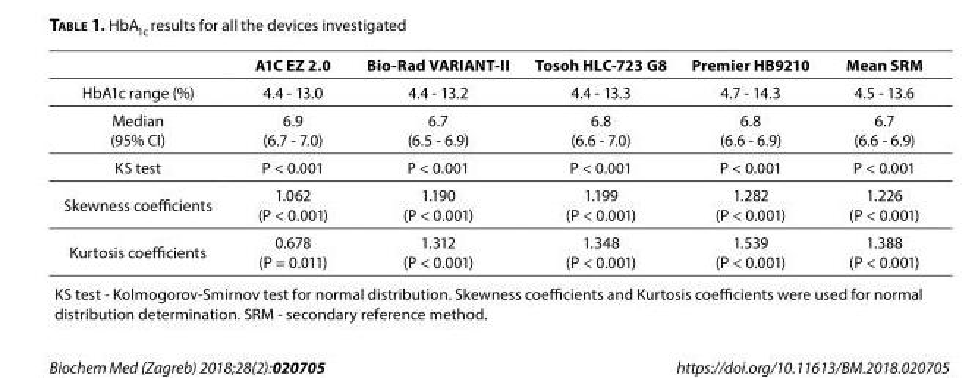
<table><thead><tr><td></td><td>A1C EZ 2.0</td><td>Bio-Rad VARIANT-II</td><td>Tosoh HLC-723 G8</td><td>Premier HB9210</td><td>Mean SRM</td></tr></thead><tbody><tr><td>HbA1c range (%)</td><td>4.4 - 13.0</td><td>4.4 - 13.2</td><td>4.4 - 13.3</td><td>4.7 - 14.3</td><td>4.5 - 13.6</td></tr><tr><td>Median (95% CI)</td><td>6.9 (6.7 - 7.0)</td><td>6.7 (6.5 - 6.9)</td><td>6.8 (6.6 - 7.0)</td><td>6.8 (6.6 - 6.9)</td><td>6.7 (6.6 - 6.9)</td></tr><tr><td>KS test</td><td>P &lt; 0.001</td><td>P &lt; 0.001</td><td>P &lt; 0.001</td><td>P &lt; 0.001</td><td>P &lt; 0.001</td></tr><tr><td>Skewness coefficients</td><td>1.062 (P &lt; 0.001)</td><td>1.190 (P &lt; 0.001)</td><td>1.199 (P &lt; 0.001)</td><td>1.282 (P &lt; 0.001)</td><td>1.226 (P &lt; 0.001)</td></tr><tr><td>Kurtosis coefficients</td><td>0.678 (P = 0.011)</td><td>1.312 (P &lt; 0.001)</td><td>1.348 (P &lt; 0.001)</td><td>1.539 (P &lt; 0.001)</td><td>1.388 (P &lt; 0.001)</td></tr><tr><td colspan="6">KS test - Kolmogorov-Smirnov test for normal distribution. Skewness coefficients and Kurtosis coefficients were used for normal distribution determination. SRM - secondary reference method.</td></tr></tbody></table>